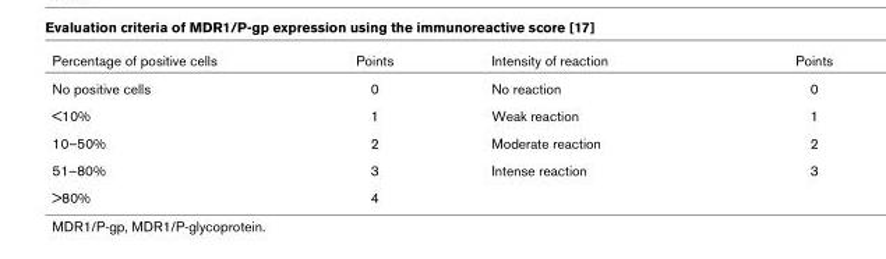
<table><thead><tr><td>Percentage of positive cells</td><td>Points</td><td>Intensity of reaction</td><td>Points</td></tr></thead><tbody><tr><td>No positive cells</td><td>0</td><td>No reaction</td><td>0</td></tr><tr><td>&lt;10%</td><td>1</td><td>Weak reaction</td><td>1</td></tr><tr><td>10–50%</td><td>2</td><td>Moderate reaction</td><td>2</td></tr><tr><td>51–80%</td><td>3</td><td>Intense reaction</td><td>3</td></tr><tr><td>&gt;80%</td><td>4</td><td></td><td></td></tr></tbody></table>